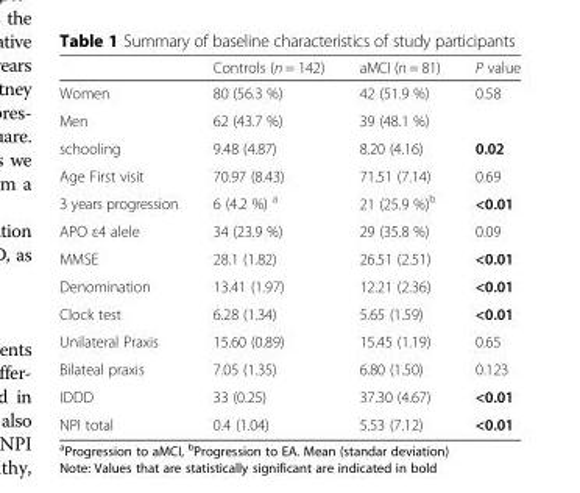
<table><thead><tr><td></td><td>Controls (n = 142)</td><td>aMCI (n = 81)</td><td>P value</td></tr></thead><tbody><tr><td>Women</td><td>80 (56.3 %)</td><td>42 (51.9 %)</td><td rowspan="2">0.58</td></tr><tr><td>Men</td><td>62 (43.7 %)</td><td>39 (48.1 %)</td></tr><tr><td>schooling</td><td>9.48 (4.87)</td><td>8.20 (4.16)</td><td>0.02</td></tr><tr><td>Age First visit</td><td>70.97 (8.43)</td><td>71.51 (7.14)</td><td>0.69</td></tr><tr><td>3 years progression</td><td>6 (4.2 %) <sup>a</sup></td><td>21 (25.9 %)<sup>b</sup></td><td>&lt;0.01</td></tr><tr><td>APO ε4 alele</td><td>34 (23.9 %)</td><td>29 (35.8 %)</td><td>0.09</td></tr><tr><td>MMSE</td><td>28.1 (1.82)</td><td>26.51 (2.51)</td><td>&lt;0.01</td></tr><tr><td>Denomination</td><td>13.41 (1.97)</td><td>12.21 (2.36)</td><td>&lt;0.01</td></tr><tr><td>Clock test</td><td>6.28 (1.34)</td><td>5.65 (1.59)</td><td>&lt;0.01</td></tr><tr><td>Unilateral Praxis</td><td>15.60 (0.89)</td><td>15.45 (1.19)</td><td>0.65</td></tr><tr><td>Bilateal praxis</td><td>7.05 (1.35)</td><td>6.80 (1.50)</td><td>0.123</td></tr><tr><td>IDDD</td><td>33 (0.25)</td><td>37.30 (4.67)</td><td>&lt;0.01</td></tr><tr><td>NPI total</td><td>0.4 (1.04)</td><td>5.53 (7.12)</td><td>&lt;0.01</td></tr></tbody></table>